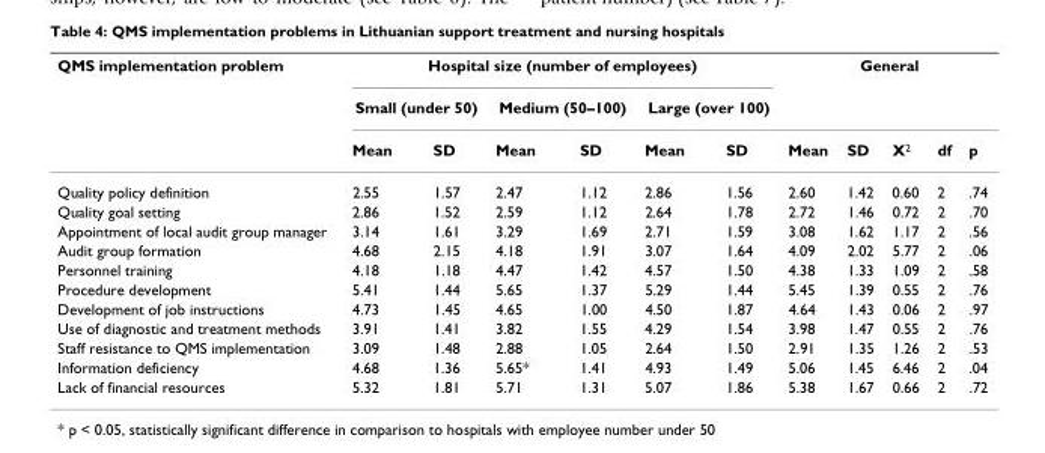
<table><thead><tr><td rowspan="3">QMS implementation problem</td><td colspan="6">Hospital size (number of employees)</td><td colspan="5">General</td></tr><tr><td colspan="2">Small (under 50)</td><td colspan="2">Medium (50–100)</td><td colspan="2">Large (over 100)</td><td rowspan="2">Mean</td><td rowspan="2">SD</td><td rowspan="2">X2</td><td rowspan="2">df</td><td rowspan="2">p</td></tr><tr><td>Mean</td><td>SD</td><td>Mean</td><td>SD</td><td>Mean</td><td>SD</td></tr></thead><tbody><tr><td>Quality policy definition</td><td>2.55</td><td>1.57</td><td>2.47</td><td>1.12</td><td>2.86</td><td>1.56</td><td>2.60</td><td>1.42</td><td>0.60</td><td>2</td><td>.74</td></tr><tr><td>Quality goal setting</td><td>2.86</td><td>1.52</td><td>2.59</td><td>1.12</td><td>2.64</td><td>1.78</td><td>2.72</td><td>1.46</td><td>0.72</td><td>2</td><td>.70</td></tr><tr><td>Appointment of local audit group manager</td><td>3.14</td><td>1.61</td><td>3.29</td><td>1.69</td><td>2.71</td><td>1.59</td><td>3.08</td><td>1.62</td><td>1.17</td><td>2</td><td>.56</td></tr><tr><td>Audit group formation</td><td>4.68</td><td>2.15</td><td>4.18</td><td>1.91</td><td>3.07</td><td>1.64</td><td>4.09</td><td>2.02</td><td>5.77</td><td>2</td><td>.06</td></tr><tr><td>Personnel training</td><td>4.18</td><td>1.18</td><td>4.47</td><td>1.42</td><td>4.57</td><td>1.50</td><td>4.38</td><td>1.33</td><td>1.09</td><td>2</td><td>.58</td></tr><tr><td>Procedure development</td><td>5.41</td><td>1.44</td><td>5.65</td><td>1.37</td><td>5.29</td><td>1.44</td><td>5.45</td><td>1.39</td><td>0.55</td><td>2</td><td>.76</td></tr><tr><td>Development of job instructions</td><td>4.73</td><td>1.45</td><td>4.65</td><td>1.00</td><td>4.50</td><td>1.87</td><td>4.64</td><td>1.43</td><td>0.06</td><td>2</td><td>.97</td></tr><tr><td>Use of diagnostic and treatment methods</td><td>3.91</td><td>1.41</td><td>3.82</td><td>1.55</td><td>4.29</td><td>1.54</td><td>3.98</td><td>1.47</td><td>0.55</td><td>2</td><td>.76</td></tr><tr><td>Staff resistance to QMS implementation</td><td>3.09</td><td>1.48</td><td>2.88</td><td>1.05</td><td>2.64</td><td>1.50</td><td>2.91</td><td>1.35</td><td>1.26</td><td>2</td><td>.53</td></tr><tr><td>Information deficiency</td><td>4.68</td><td>1.36</td><td>5.65*</td><td>1.41</td><td>4.93</td><td>1.49</td><td>5.06</td><td>1.45</td><td>6.46</td><td>2</td><td>.04</td></tr><tr><td>Lack of financial resources</td><td>5.32</td><td>1.81</td><td>5.71</td><td>1.31</td><td>5.07</td><td>1.86</td><td>5.38</td><td>1.67</td><td>0.66</td><td>2</td><td>.72</td></tr></tbody></table>